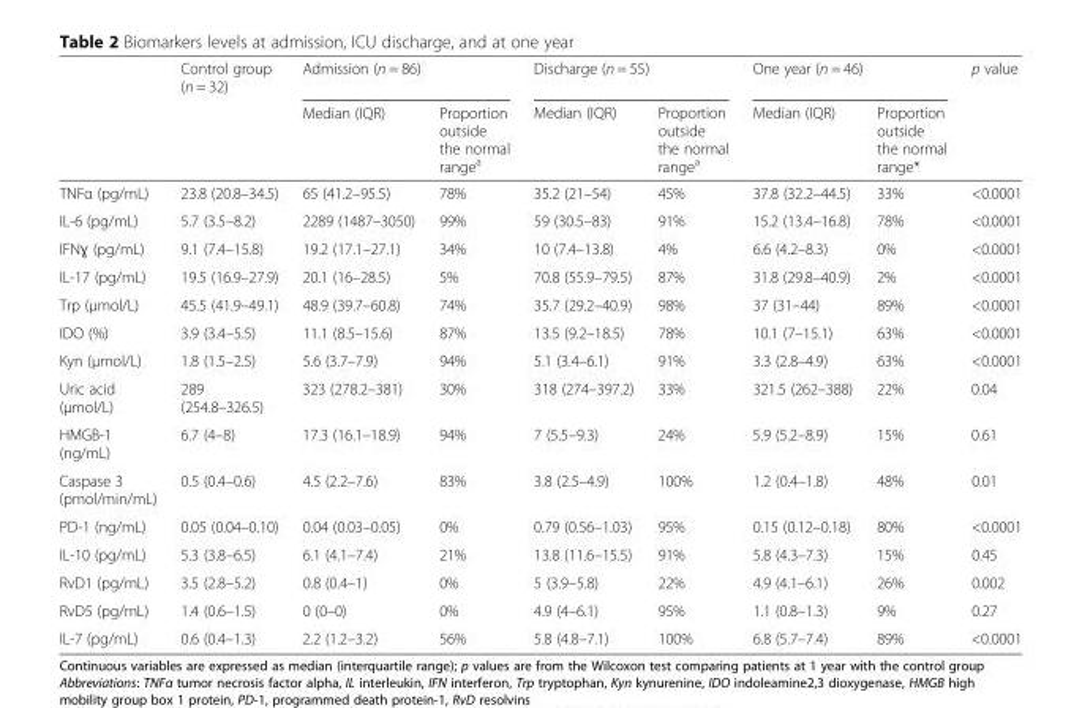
<table><thead><tr><td rowspan="2"></td><td rowspan="2">Control group (n = 32)</td><td colspan="2">Admission (n = 86)</td><td colspan="2">Discharge (n = 55)</td><td colspan="2">One year (n = 46)</td><td rowspan="2">p value</td></tr><tr><td>Median (IQR)</td><td>Proportion outside the normal range<sup>a</sup></td><td>Median (IQR)</td><td>Proportion outside the normal range<sup>a</sup></td><td>Median (IQR)</td><td>Proportion outside the normal range*</td></tr></thead><tbody><tr><td>TNFα (pg/mL)</td><td>23.8 (20.8–34.5)</td><td>65 (41.2–95.5)</td><td>78%</td><td>35.2 (21–54)</td><td>45%</td><td>37.8 (32.2–44.5)</td><td>33%</td><td>&lt;0.0001</td></tr><tr><td>IL-6 (pg/mL)</td><td>5.7 (3.5–8.2)</td><td>2289 (1487–3050)</td><td>99%</td><td>59 (30.5–83)</td><td>91%</td><td>15.2 (13.4–16.8)</td><td>78%</td><td>&lt;0.0001</td></tr><tr><td>IFNɣ (pg/mL)</td><td>9.1 (7.4–15.8)</td><td>19.2 (17.1–27.1)</td><td>34%</td><td>10 (7.4–13.8)</td><td>4%</td><td>6.6 (4.2–8.3)</td><td>0%</td><td>&lt;0.0001</td></tr><tr><td>IL-17 (pg/mL)</td><td>19.5 (16.9–27.9)</td><td>20.1 (16–28.5)</td><td>5%</td><td>70.8 (55.9–79.5)</td><td>87%</td><td>31.8 (29.8–40.9)</td><td>2%</td><td>&lt;0.0001</td></tr><tr><td>Trp (μmol/L)</td><td>45.5 (41.9–49.1)</td><td>48.9 (39.7–60.8)</td><td>74%</td><td>35.7 (29.2–40.9)</td><td>98%</td><td>37 (31–44)</td><td>89%</td><td>&lt;0.0001</td></tr><tr><td>IDO (%)</td><td>3.9 (3.4–5.5)</td><td>11.1 (8.5–15.6)</td><td>87%</td><td>13.5 (9.2–18.5)</td><td>78%</td><td>10.1 (7–15.1)</td><td>63%</td><td>&lt;0.0001</td></tr><tr><td>Kyn (μmol/L)</td><td>1.8 (1.5–2.5)</td><td>5.6 (3.7–7.9)</td><td>94%</td><td>5.1 (3.4–6.1)</td><td>91%</td><td>3.3 (2.8–4.9)</td><td>63%</td><td>&lt;0.0001</td></tr><tr><td>Uric acid (μmol/L)</td><td>289 (254.8–326.5)</td><td>323 (278.2–381)</td><td>30%</td><td>318 (274–397.2)</td><td>33%</td><td>321.5 (262–388)</td><td>22%</td><td>0.04</td></tr><tr><td>HMGB-1 (ng/mL)</td><td>6.7 (4–8)</td><td>17.3 (16.1–18.9)</td><td>94%</td><td>7 (5.5–9.3)</td><td>24%</td><td>5.9 (5.2–8.9)</td><td>15%</td><td>0.61</td></tr><tr><td>Caspase 3 (pmol/min/mL)</td><td>0.5 (0.4–0.6)</td><td>4.5 (2.2–7.6)</td><td>83%</td><td>3.8 (2.5–4.9)</td><td>100%</td><td>1.2 (0.4–1.8)</td><td>48%</td><td>0.01</td></tr><tr><td>PD-1 (ng/mL)</td><td>0.05 (0.04–0.10)</td><td>0.04 (0.03–0.05)</td><td>0%</td><td>0.79 (0.56–1.03)</td><td>95%</td><td>0.15 (0.12–0.18)</td><td>80%</td><td>&lt;0.0001</td></tr><tr><td>IL-10 (pg/mL)</td><td>5.3 (3.8–6.5)</td><td>6.1 (4.1–7.4)</td><td>21%</td><td>13.8 (11.6–15.5)</td><td>91%</td><td>5.8 (4.3–7.3)</td><td>15%</td><td>0.45</td></tr><tr><td>RvD1 (pg/mL)</td><td>3.5 (2.8–5.2)</td><td>0.8 (0.4–1)</td><td>0%</td><td>5 (3.9–5.8)</td><td>22%</td><td>4.9 (4.1–6.1)</td><td>26%</td><td>0.002</td></tr><tr><td>RvD5 (pg/mL)</td><td>1.4 (0.6–1.5)</td><td>0 (0–0)</td><td>0%</td><td>4.9 (4–6.1)</td><td>95%</td><td>1.1 (0.8–1.3)</td><td>9%</td><td>0.27</td></tr><tr><td>IL-7 (pg/mL)</td><td>0.6 (0.4–1.3)</td><td>2.2 (1.2–3.2)</td><td>56%</td><td>5.8 (4.8–7.1)</td><td>100%</td><td>6.8 (5.7–7.4)</td><td>89%</td><td>&lt;0.0001</td></tr></tbody></table>